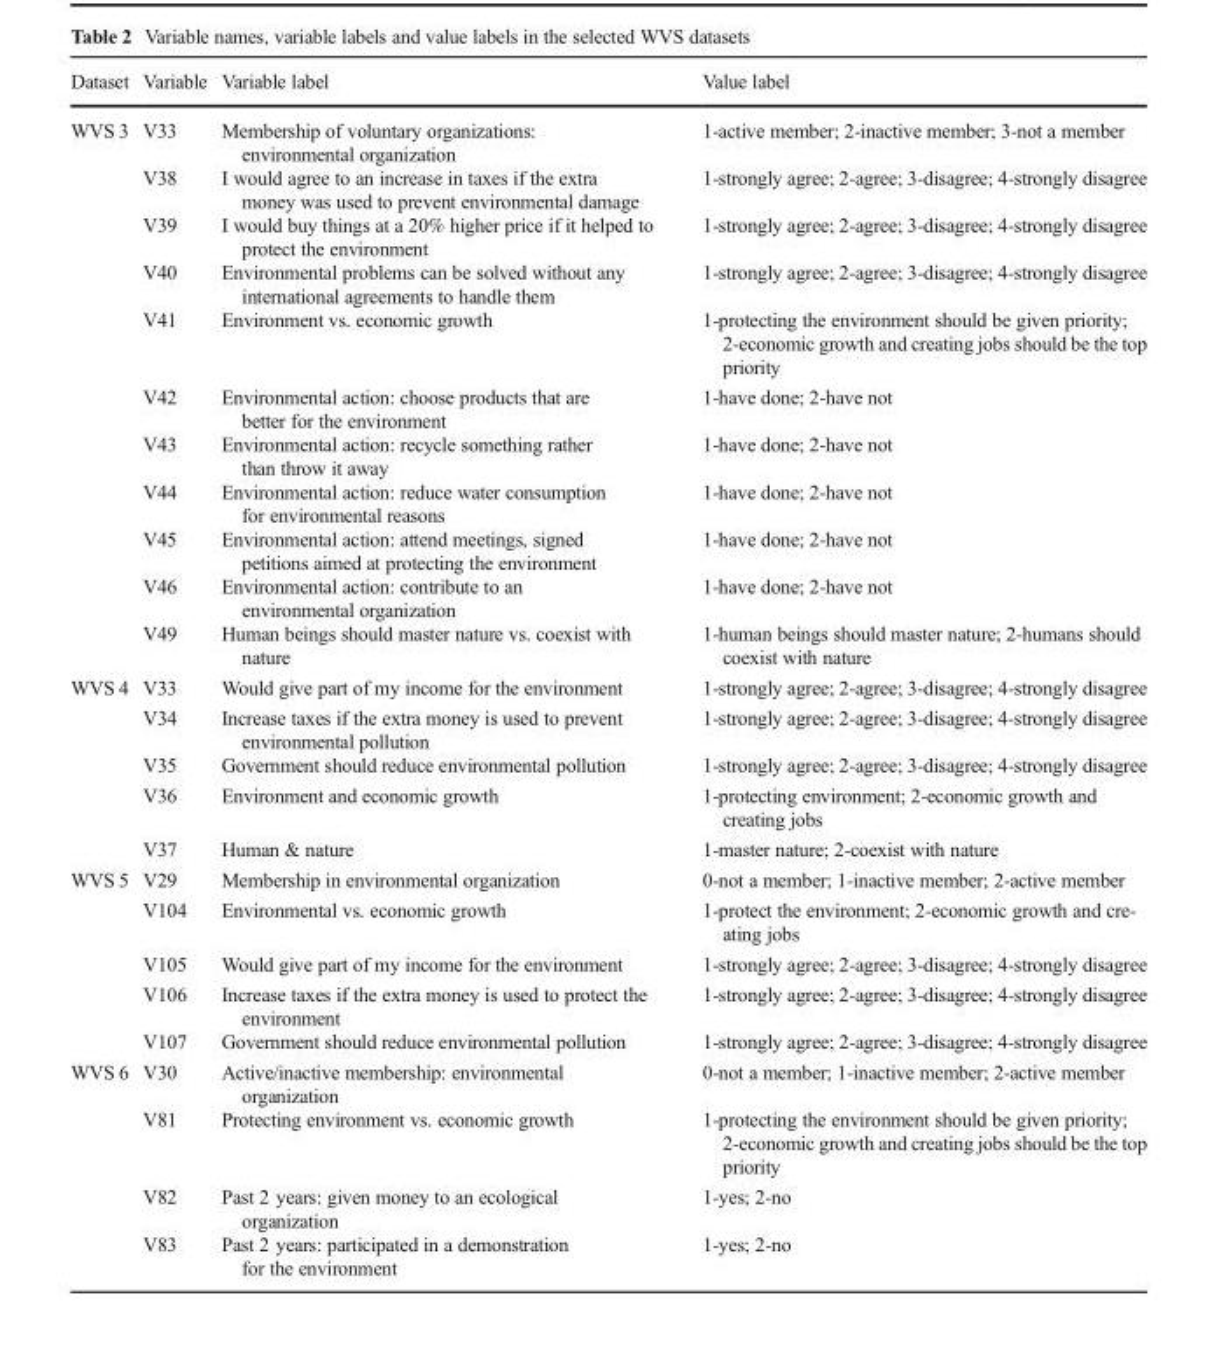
<table><thead><tr><td>Dataset</td><td>Variable</td><td>Variable label</td><td>Value label</td></tr></thead><tbody><tr><td rowspan="11">WVS 3</td><td>V33</td><td>Membership of voluntary organizations: environmental organization</td><td>1-active member; 2-inactive member; 3-not a member</td></tr><tr><td>V38</td><td>I would agree to an increase in taxes if the extra money was used to prevent environmental damage</td><td>1-strongly agree; 2-agree; 3-disagree; 4-strongly disagree</td></tr><tr><td>V39</td><td>I would buy things at a 20% higher price if it helped to protect the environment</td><td>1-strongly agree; 2-agree; 3-disagree; 4-strongly disagree</td></tr><tr><td>V40</td><td>Environmental problems can be solved without any international agreements to handle them</td><td>1-strongly agree; 2-agree; 3-disagree; 4-strongly disagree</td></tr><tr><td>V41</td><td>Environment vs. economic growth</td><td>1-protecting the environment should be given priority; 2-economic growth and creating jobs should be the top priority</td></tr><tr><td>V42</td><td>Environmental action: choose products that are better for the environment</td><td>1-have done; 2-have not</td></tr><tr><td>V43</td><td>Environmental action: recycle something rather than throw it away</td><td>1-have done; 2-have not</td></tr><tr><td>V44</td><td>Environmental action: reduce water consumption for environmental reasons</td><td>1-have done; 2-have not</td></tr><tr><td>V45</td><td>Environmental action: attend meetings, signed petitions aimed at protecting the environment</td><td>1-have done; 2-have not</td></tr><tr><td>V46</td><td>Environmental action: contribute to an environmental organization</td><td>1-have done; 2-have not</td></tr><tr><td>V49</td><td>Human beings should master nature vs. coexist with nature</td><td>1-human beings should master nature; 2-humans should coexist with nature</td></tr><tr><td rowspan="5">WVS 4</td><td>V33</td><td>Would give part of my income for the environment</td><td>1-strongly agree; 2-agree; 3-disagree; 4-strongly disagree</td></tr><tr><td>V34</td><td>Increase taxes if the extra money is used to prevent environmental pollution</td><td>1-strongly agree; 2-agree; 3-disagree; 4-strongly disagree</td></tr><tr><td>V35</td><td>Government should reduce environmental pollution</td><td>1-strongly agree; 2-agree; 3-disagree; 4-strongly disagree</td></tr><tr><td>V36</td><td>Environment and economic growth</td><td>1-protecting environment; 2-economic growth and creating jobs</td></tr><tr><td>V37</td><td>Human &amp; nature</td><td>1-master nature; 2-coexist with nature</td></tr><tr><td rowspan="5">WVS 5</td><td>V29</td><td>Membership in environmental organization</td><td>0-not a member; 1-inactive member; 2-active member</td></tr><tr><td>V104</td><td>Environmental vs. economic growth</td><td>1-protect the environment; 2-economic growth and cre- ating jobs</td></tr><tr><td>V105</td><td>Would give part of my income for the environment</td><td>1-strongly agree; 2-agree; 3-disagree; 4-strongly disagree</td></tr><tr><td>V106</td><td>Increase taxes if the extra money is used to protect the environment</td><td>1-strongly agree; 2-agree; 3-disagree; 4-strongly disagree</td></tr><tr><td>V107</td><td>Government should reduce environmental pollution</td><td>1-strongly agree; 2-agree; 3-disagree; 4-strongly disagree</td></tr><tr><td rowspan="4">WVS 6</td><td>V30</td><td>Active/inactive membership: environmental organization</td><td>0-not a member; 1-inactive member; 2-active member</td></tr><tr><td>V81</td><td>Protecting environment vs. economic growth</td><td>1-protecting the environment should be given priority; 2-economic growth and creating jobs should be the top priority</td></tr><tr><td>V82</td><td>Past 2 years: given money to an ecological organization</td><td>1-yes; 2-no</td></tr><tr><td>V83</td><td>Past 2 years: participated in a demonstration for the environment</td><td>1-yes; 2-no</td></tr></tbody></table>